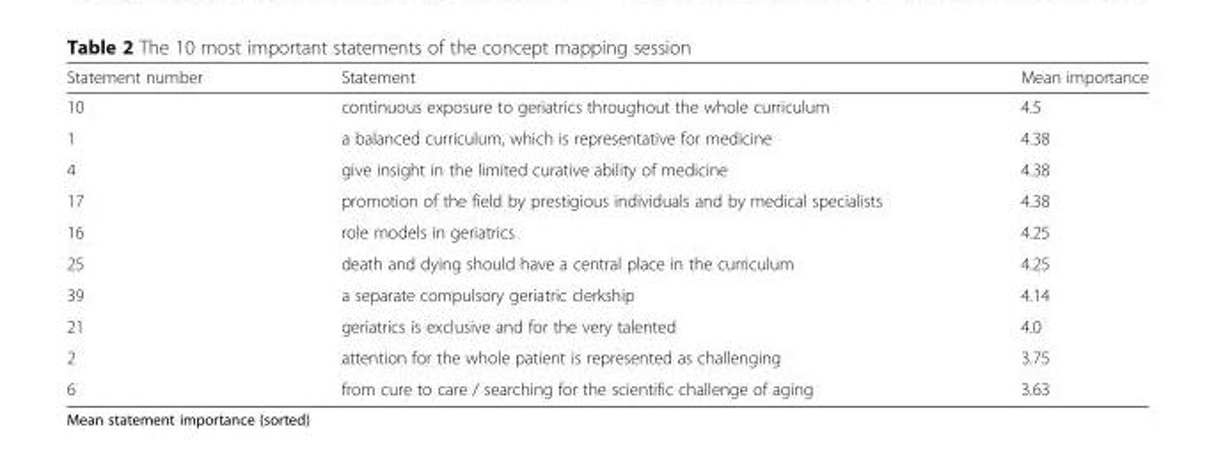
<table><thead><tr><td>Statement number</td><td>Statement</td><td>Mean importance</td></tr></thead><tbody><tr><td>10</td><td>continuous exposure to geriatrics throughout the whole curriculum</td><td>4.5</td></tr><tr><td>1</td><td>a balanced curriculum, which is representative for medicine</td><td>4.38</td></tr><tr><td>4</td><td>give insight in the limited curative ability of medicine</td><td>4.38</td></tr><tr><td>17</td><td>promotion of the field by prestigious individuals and by medical specialists</td><td>4.38</td></tr><tr><td>16</td><td>role models in geriatrics</td><td>4.25</td></tr><tr><td>25</td><td>death and dying should have a central place in the curriculum</td><td>4.25</td></tr><tr><td>39</td><td>a separate compulsory geriatric clerkship</td><td>4.14</td></tr><tr><td>21</td><td>geriatrics is exclusive and for the very talented</td><td>4.0</td></tr><tr><td>2</td><td>attention for the whole patient is represented as challenging</td><td>3.75</td></tr><tr><td>6</td><td>from cure to care / searching for the scientific challenge of aging</td><td>3.63</td></tr></tbody></table>